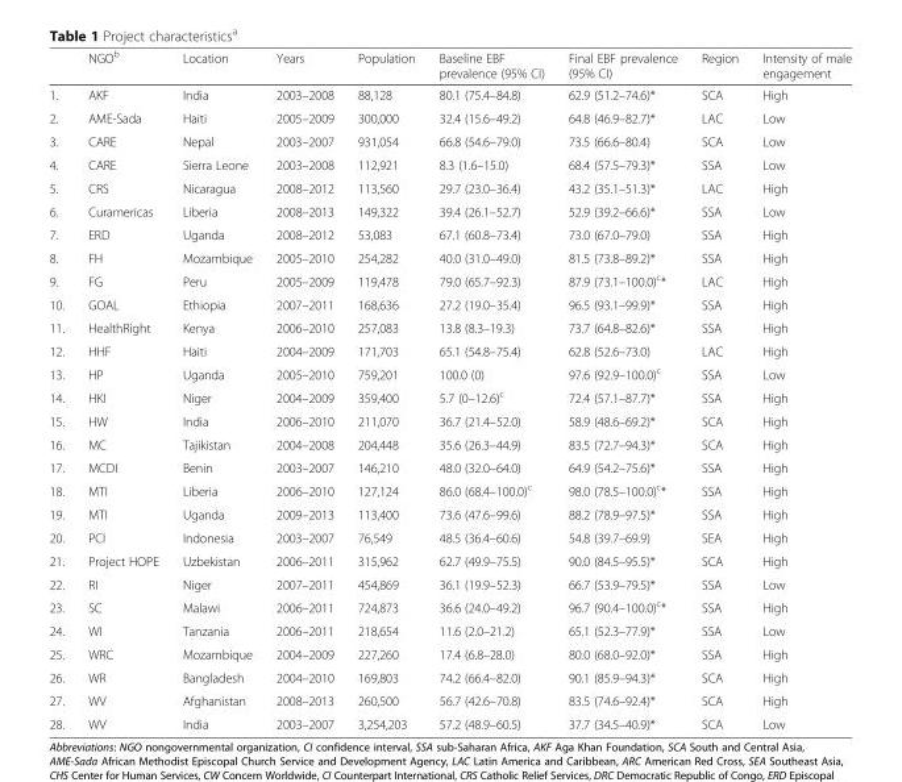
<table><thead><tr><td></td><td>NGO<sup>b</sup></td><td>Location</td><td>Years</td><td>Population</td><td>Baseline EBF prevalence (95% CI)</td><td>Final EBF prevalence (95% CI)</td><td>Region</td><td>Intensity of male engagement</td></tr></thead><tbody><tr><td>1.</td><td>AKF</td><td>India</td><td>2003–2008</td><td>88,128</td><td>80.1 (75.4–84.8)</td><td>62.9 (51.2–74.6)*</td><td>SCA</td><td>High</td></tr><tr><td>2.</td><td>AME-Sada</td><td>Haiti</td><td>2005–2009</td><td>300,000</td><td>32.4 (15.6–49.2)</td><td>64.8 (46.9–82.7)*</td><td>LAC</td><td>Low</td></tr><tr><td>3.</td><td>CARE</td><td>Nepal</td><td>2003–2007</td><td>931,054</td><td>66.8 (54.6–79.0)</td><td>73.5 (66.6–80.4)</td><td>SCA</td><td>Low</td></tr><tr><td>4.</td><td>CARE</td><td>Sierra Leone</td><td>2003–2008</td><td>112,921</td><td>8.3 (1.6–15.0)</td><td>68.4 (57.5–79.3)*</td><td>SSA</td><td>Low</td></tr><tr><td>5.</td><td>CRS</td><td>Nicaragua</td><td>2008–2012</td><td>113,560</td><td>29.7 (23.0–36.4)</td><td>43.2 (35.1–51.3)*</td><td>LAC</td><td>High</td></tr><tr><td>6.</td><td>Curamericas</td><td>Liberia</td><td>2008–2013</td><td>149,322</td><td>39.4 (26.1–52.7)</td><td>52.9 (39.2–66.6)*</td><td>SSA</td><td>Low</td></tr><tr><td>7.</td><td>ERD</td><td>Uganda</td><td>2008–2012</td><td>53,083</td><td>67.1 (60.8–73.4)</td><td>73.0 (67.0–79.0)</td><td>SSA</td><td>High</td></tr><tr><td>8.</td><td>FH</td><td>Mozambique</td><td>2005–2010</td><td>254,282</td><td>40.0 (31.0–49.0)</td><td>81.5 (73.8–89.2)*</td><td>SSA</td><td>High</td></tr><tr><td>9.</td><td>FG</td><td>Peru</td><td>2005–2009</td><td>119,478</td><td>79.0 (65.7–92.3)</td><td>87.9 (73.1–100.0)<sup>c</sup>*</td><td>LAC</td><td>High</td></tr><tr><td>10.</td><td>GOAL</td><td>Ethiopia</td><td>2007–2011</td><td>168,636</td><td>27.2 (19.0–35.4)</td><td>96.5 (93.1–99.9)*</td><td>SSA</td><td>High</td></tr><tr><td>11.</td><td>HealthRight</td><td>Kenya</td><td>2006–2010</td><td>257,083</td><td>13.8 (8.3–19.3)</td><td>73.7 (64.8–82.6)*</td><td>SSA</td><td>High</td></tr><tr><td>12.</td><td>HHF</td><td>Haiti</td><td>2004–2009</td><td>171,703</td><td>65.1 (54.8–75.4)</td><td>62.8 (52.6–73.0)</td><td>LAC</td><td>High</td></tr><tr><td>13.</td><td>HP</td><td>Uganda</td><td>2005–2010</td><td>759,201</td><td>100.0 (0)</td><td>97.6 (92.9–100.0)<sup>c</sup></td><td>SSA</td><td>Low</td></tr><tr><td>14.</td><td>HKI</td><td>Niger</td><td>2004–2009</td><td>359,400</td><td>5.7 (0–12.6)<sup>c</sup></td><td>72.4 (57.1–87.7)*</td><td>SSA</td><td>High</td></tr><tr><td>15.</td><td>HW</td><td>India</td><td>2006–2010</td><td>211,070</td><td>36.7 (21.4–52.0)</td><td>58.9 (48.6–69.2)*</td><td>SCA</td><td>High</td></tr><tr><td>16.</td><td>MC</td><td>Tajikistan</td><td>2004–2008</td><td>204,448</td><td>35.6 (26.3–44.9)</td><td>83.5 (72.7–94.3)*</td><td>SCA</td><td>High</td></tr><tr><td>17.</td><td>MCDI</td><td>Benin</td><td>2003–2007</td><td>146,210</td><td>48.0 (32.0–64.0)</td><td>64.9 (54.2–75.6)*</td><td>SSA</td><td>High</td></tr><tr><td>18.</td><td>MTI</td><td>Liberia</td><td>2006–2010</td><td>127,124</td><td>86.0 (68.4–100.0)<sup>c</sup></td><td>98.0 (78.5–100.0)<sup>c</sup>*</td><td>SSA</td><td>High</td></tr><tr><td>19.</td><td>MTI</td><td>Uganda</td><td>2009–2013</td><td>113,400</td><td>73.6 (47.6–99.6)</td><td>88.2 (78.9–97.5)*</td><td>SSA</td><td>High</td></tr><tr><td>20.</td><td>PCI</td><td>Indonesia</td><td>2003–2007</td><td>76,549</td><td>48.5 (36.4–60.6)</td><td>54.8 (39.7–69.9)</td><td>SEA</td><td>High</td></tr><tr><td>21.</td><td>Project HOPE</td><td>Uzbekistan</td><td>2006–2011</td><td>315,962</td><td>62.7 (49.9–75.5)</td><td>90.0 (84.5–95.5)*</td><td>SCA</td><td>High</td></tr><tr><td>22.</td><td>RI</td><td>Niger</td><td>2007–2011</td><td>454,869</td><td>36.1 (19.9–52.3)</td><td>66.7 (53.9–79.5)*</td><td>SSA</td><td>Low</td></tr><tr><td>23.</td><td>SC</td><td>Malawi</td><td>2006–2011</td><td>724,873</td><td>36.6 (24.0–49.2)</td><td>96.7 (90.4–100.0)<sup>c</sup>*</td><td>SSA</td><td>High</td></tr><tr><td>24.</td><td>WI</td><td>Tanzania</td><td>2006–2011</td><td>218,654</td><td>11.6 (2.0–21.2)</td><td>65.1 (52.3–77.9)*</td><td>SSA</td><td>Low</td></tr><tr><td>25.</td><td>WRC</td><td>Mozambique</td><td>2004–2009</td><td>227,260</td><td>17.4 (6.8–28.0)</td><td>80.0 (68.0–92.0)*</td><td>SSA</td><td>High</td></tr><tr><td>26.</td><td>WR</td><td>Bangladesh</td><td>2004–2010</td><td>169,803</td><td>74.2 (66.4–82.0)</td><td>90.1 (85.9–94.3)*</td><td>SCA</td><td>High</td></tr><tr><td>27.</td><td>WV</td><td>Afghanistan</td><td>2008–2013</td><td>260,500</td><td>56.7 (42.6–70.8)</td><td>83.5 (74.6–92.4)*</td><td>SCA</td><td>High</td></tr><tr><td>28.</td><td>WV</td><td>India</td><td>2003–2007</td><td>3,254,203</td><td>57.2 (48.9–60.5)</td><td>37.7 (34.5–40.9)*</td><td>SCA</td><td>Low</td></tr></tbody></table>